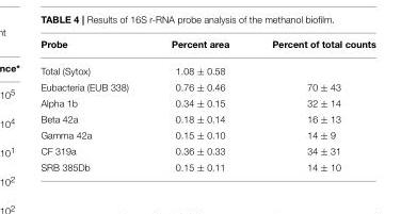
<table><thead><tr><td>Probe</td><td>Percent area</td><td>Percent of total counts</td></tr></thead><tbody><tr><td>Total (Sytox)</td><td>1.08 ± 0.58</td><td></td></tr><tr><td>Eubacteria (EUB 338)</td><td>0.76 ± 0.46</td><td>70 ± 43</td></tr><tr><td>Alpha 1b</td><td>0.34 ± 0.15</td><td>32 ± 14</td></tr><tr><td>Beta 42a</td><td>0.18 ± 0.14</td><td>16 ± 13</td></tr><tr><td>Gamma 42a</td><td>0.15 ± 0.10</td><td>14 ± 9</td></tr><tr><td>CF 319a</td><td>0.36 ± 0.33</td><td>34 ± 31</td></tr><tr><td>SRB 385Db</td><td>0.15 ± 0.11</td><td>14 ± 10</td></tr></tbody></table>